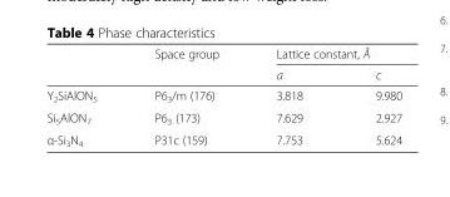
<table><thead><tr><td rowspan="2"></td><td rowspan="2">Space group</td><td colspan="2">Lattice constant, Å</td></tr><tr><td>a</td><td>c</td></tr></thead><tbody><tr><td>Y<sub>2</sub>SiAlON<sub>5</sub></td><td>P6<sub>3</sub>/m (176)</td><td>3.818</td><td>9.980</td></tr><tr><td>Si<sub>5</sub>AlON<sub>7</sub></td><td>P6<sub>3</sub> (173)</td><td>7.629</td><td>2.927</td></tr><tr><td>α-Si<sub>3</sub>N<sub>4</sub></td><td>P31c (159)</td><td>7.753</td><td>5.624</td></tr></tbody></table>